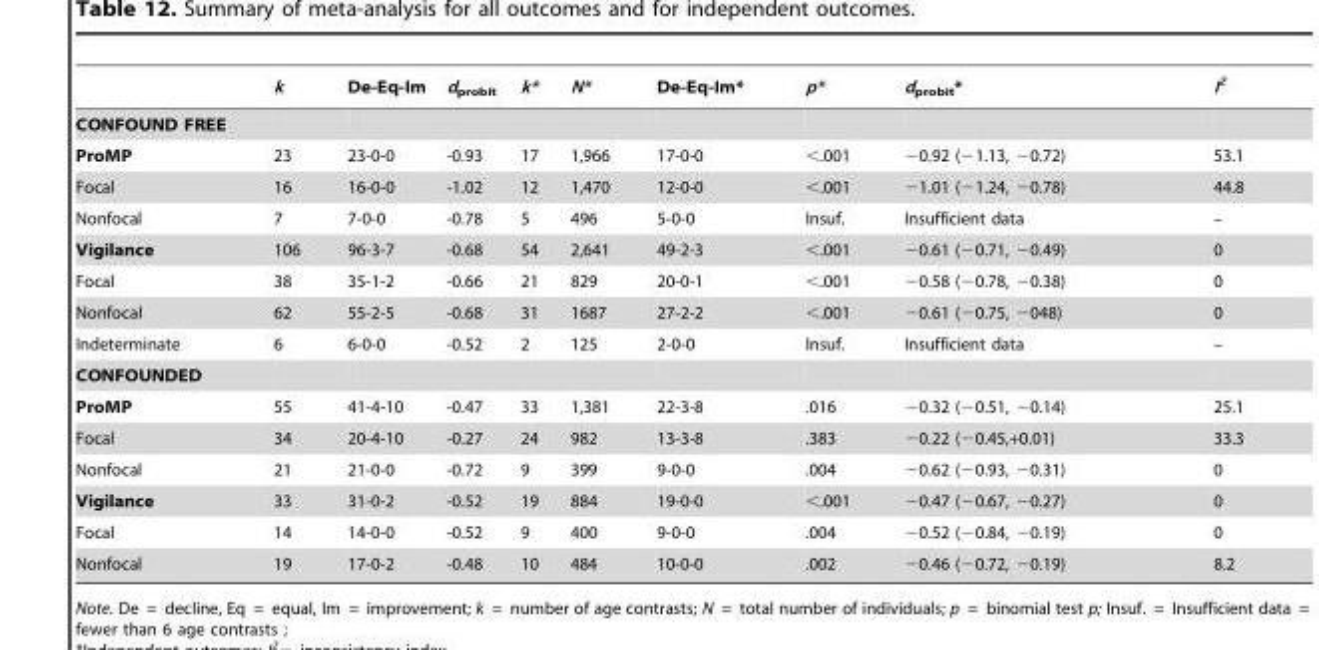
<table><thead><tr><td></td><td>k</td><td>De-Eq-Im</td><td>d<sub>probit</sub></td><td>k*</td><td>N*</td><td>De-Eq-Im*</td><td>p*</td><td>d<sub>probit</sub>*</td><td>I<sup>2</sup></td></tr></thead><tbody><tr><td colspan="10">CONFOUND FREE</td></tr><tr><td>ProMP</td><td>23</td><td>23-0-0</td><td>-0.93</td><td>17</td><td>1,966</td><td>17-0-0</td><td>&lt;.001</td><td>−0.92 (−1.13, −0.72)</td><td>53.1</td></tr><tr><td>Focal</td><td>16</td><td>16-0-0</td><td>-1.02</td><td>12</td><td>1,470</td><td>12-0-0</td><td>&lt;.001</td><td>−1.01 (−1.24, −0.78)</td><td>44.8</td></tr><tr><td>Nonfocal</td><td>7</td><td>7-0-0</td><td>-0.78</td><td>5</td><td>496</td><td>5-0-0</td><td>Insuf.</td><td>Insufficient data</td><td>–</td></tr><tr><td>Vigilance</td><td>106</td><td>96-3-7</td><td>-0.68</td><td>54</td><td>2,641</td><td>49-2-3</td><td>&lt;.001</td><td>−0.61 (−0.71, −0.49)</td><td>0</td></tr><tr><td>Focal</td><td>38</td><td>35-1-2</td><td>-0.66</td><td>21</td><td>829</td><td>20-0-1</td><td>&lt;.001</td><td>−0.58 (−0.78, −0.38)</td><td>0</td></tr><tr><td>Nonfocal</td><td>62</td><td>55-2-5</td><td>-0.68</td><td>31</td><td>1687</td><td>27-2-2</td><td>&lt;.001</td><td>−0.61 (−0.75, −048)</td><td>0</td></tr><tr><td>Indeterminate</td><td>6</td><td>6-0-0</td><td>-0.52</td><td>2</td><td>125</td><td>2-0-0</td><td>Insuf.</td><td>Insufficient data</td><td>–</td></tr><tr><td colspan="10">CONFOUNDED</td></tr><tr><td>ProMP</td><td>55</td><td>41-4-10</td><td>-0.47</td><td>33</td><td>1,381</td><td>22-3-8</td><td>.016</td><td>−0.32 (−0.51, −0.14)</td><td>25.1</td></tr><tr><td>Focal</td><td>34</td><td>20-4-10</td><td>-0.27</td><td>24</td><td>982</td><td>13-3-8</td><td>.383</td><td>−0.22 (−0.45,+0.01)</td><td>33.3</td></tr><tr><td>Nonfocal</td><td>21</td><td>21-0-0</td><td>-0.72</td><td>9</td><td>399</td><td>9-0-0</td><td>.004</td><td>−0.62 (−0.93, −0.31)</td><td>0</td></tr><tr><td>Vigilance</td><td>33</td><td>31-0-2</td><td>-0.52</td><td>19</td><td>884</td><td>19-0-0</td><td>&lt;.001</td><td>−0.47 (−0.67, −0.27)</td><td>0</td></tr><tr><td>Focal</td><td>14</td><td>14-0-0</td><td>-0.52</td><td>9</td><td>400</td><td>9-0-0</td><td>.004</td><td>−0.52 (−0.84, −0.19)</td><td>0</td></tr><tr><td>Nonfocal</td><td>19</td><td>17-0-2</td><td>-0.48</td><td>10</td><td>484</td><td>10-0-0</td><td>.002</td><td>−0.46 (−0.72, −0.19)</td><td>8.2</td></tr></tbody></table>